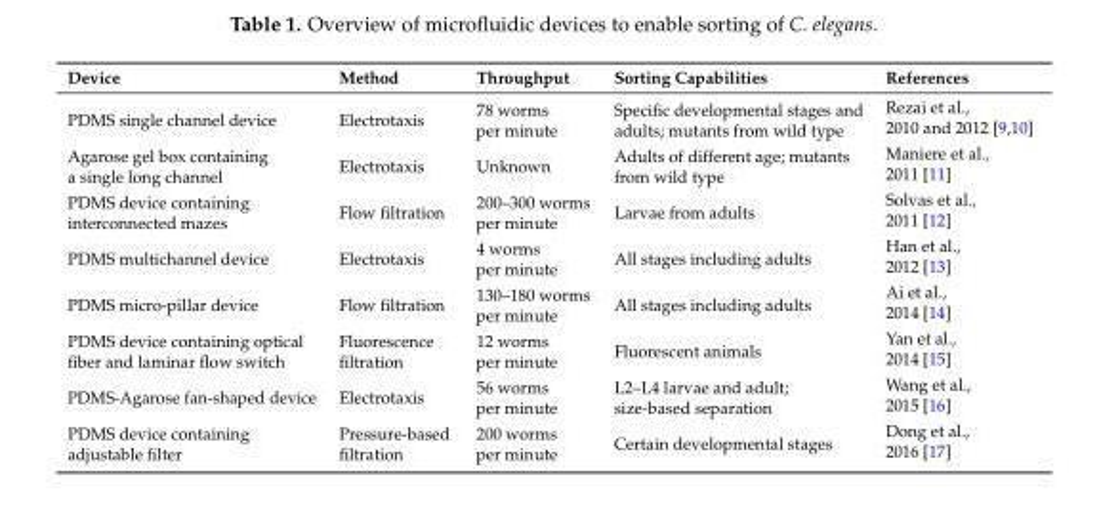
<table><thead><tr><td>Device</td><td>Method</td><td>Throughput</td><td>Sorting Capabilities</td><td>References</td></tr></thead><tbody><tr><td>PDMS single channel device</td><td>Electrotaxis</td><td>78 worms per minute</td><td>Specific developmental stages and adults; mutants from wild type</td><td>Rezai et al., 2010 and 2012 [9,10]</td></tr><tr><td>Agarose gel box containing a single long channel</td><td>Electrotaxis</td><td>Unknown</td><td>Adults of different age; mutants from wild type</td><td>Maniere et al., 2011 [11]</td></tr><tr><td>PDMS device containing interconnected mazes</td><td>Flow filtration</td><td>200–300 worms per minute</td><td>Larvae from adults</td><td>Solvas et al., 2011 [12]</td></tr><tr><td>PDMS multichannel device</td><td>Electrotaxis</td><td>4 worms per minute</td><td>All stages including adults</td><td>Han et al., 2012 [13]</td></tr><tr><td>PDMS micro-pillar device</td><td>Flow filtration</td><td>130–180 worms per minute</td><td>All stages including adults</td><td>Ai et al., 2014 [14]</td></tr><tr><td>PDMS device containing optical fiber and laminar flow switch</td><td>Fluorescence filtration</td><td>12 worms per minute</td><td>Fluorescent animals</td><td>Yan et al., 2014 [15]</td></tr><tr><td>PDMS-Agarose fan-shaped device</td><td>Electrotaxis</td><td>56 worms per minute</td><td>L2–L4 larvae and adult; size-based separation</td><td>Wang et al., 2015 [16]</td></tr><tr><td>PDMS device containing adjustable filter</td><td>Pressure-based filtration</td><td>200 worms per minute</td><td>Certain developmental stages</td><td>Dong et al., 2016 [17]</td></tr></tbody></table>